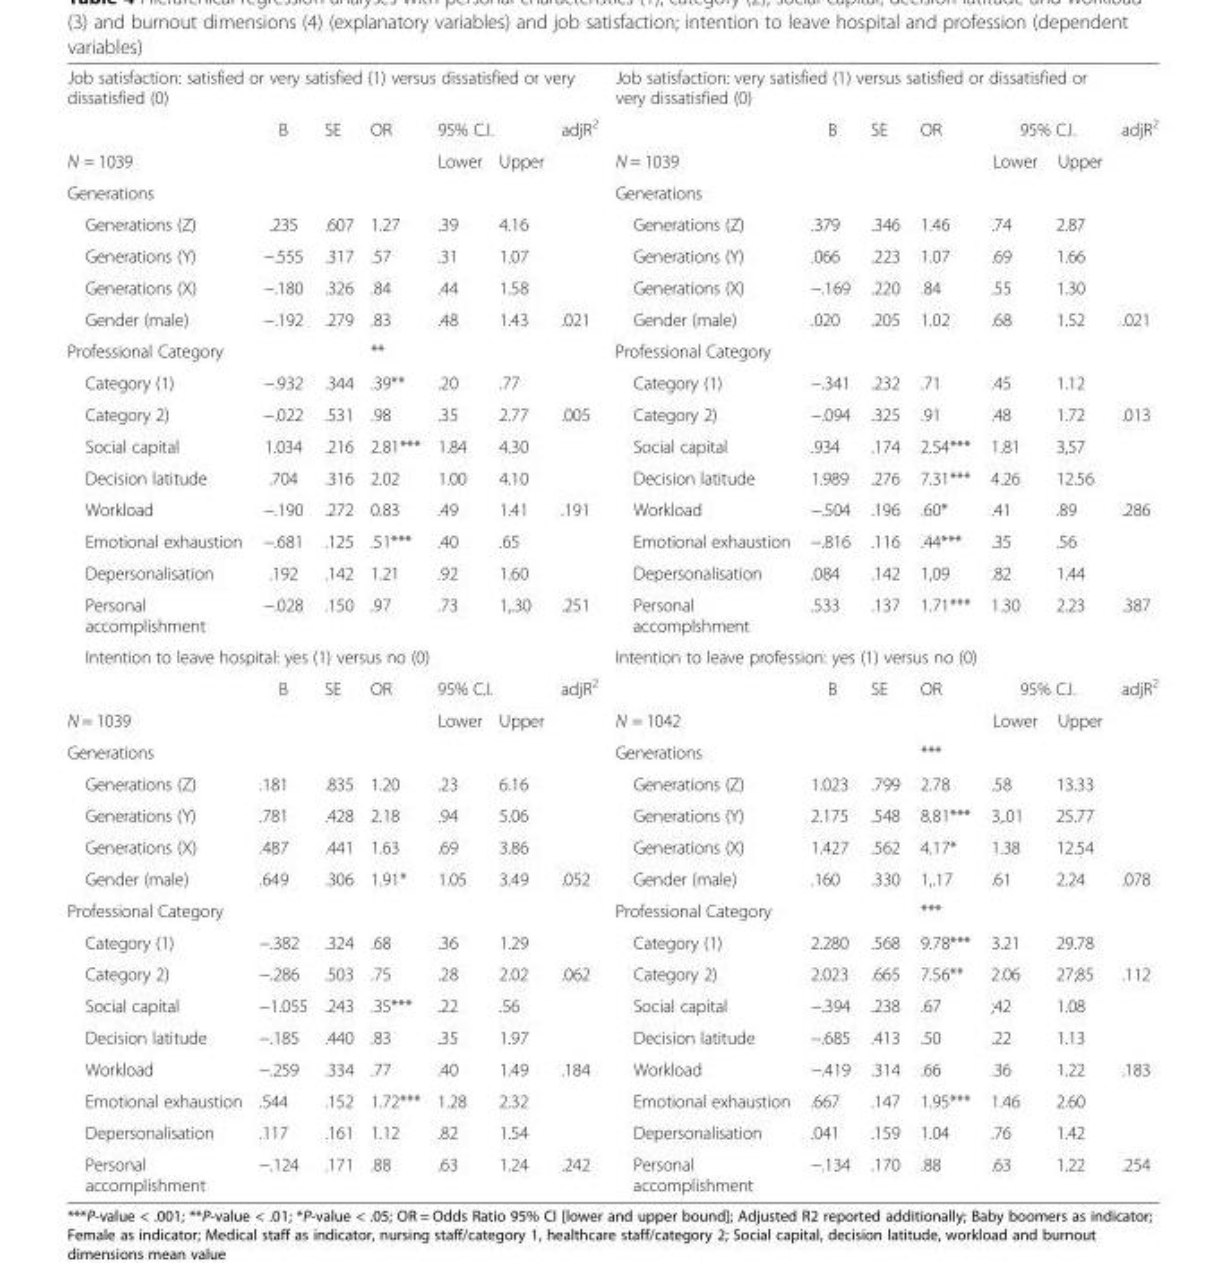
<table><tbody><tr><td colspan="7">Job satisfaction: satisfied or very satisfied (1) versus dissatisfied or very dissatisfied (0)</td><td colspan="6">Job satisfaction: very satisfied (1) versus satisfied or dissatisfied or very dissatisfied (0)</td><td></td></tr><tr><td></td><td>B</td><td>SE</td><td>OR</td><td colspan="2">95% C.I.</td><td>adjR<sup>2</sup></td><td></td><td>B</td><td>SE</td><td>OR</td><td colspan="2">95% C.I.</td><td>adjR<sup>2</sup></td></tr><tr><td>N = 1039</td><td></td><td></td><td></td><td>Lower</td><td>Upper</td><td></td><td>N = 1039</td><td></td><td></td><td></td><td>Lower</td><td>Upper</td><td></td></tr><tr><td>Generations</td><td></td><td></td><td></td><td></td><td></td><td></td><td>Generations</td><td></td><td></td><td></td><td></td><td></td><td></td></tr><tr><td>Generations (Z)</td><td>.235</td><td>.607</td><td>1.27</td><td>.39</td><td>4.16</td><td></td><td>Generations (Z)</td><td>.379</td><td>.346</td><td>1.46</td><td>.74</td><td>2.87</td><td></td></tr><tr><td>Generations (Y)</td><td>−.555</td><td>.317</td><td>.57</td><td>.31</td><td>1.07</td><td></td><td>Generations (Y)</td><td>.066</td><td>.223</td><td>1.07</td><td>.69</td><td>1.66</td><td></td></tr><tr><td>Generations (X)</td><td>−.180</td><td>.326</td><td>.84</td><td>.44</td><td>1.58</td><td></td><td>Generations (X)</td><td>−.169</td><td>.220</td><td>.84</td><td>.55</td><td>1.30</td><td></td></tr><tr><td>Gender (male)</td><td>−.192</td><td>.279</td><td>.83</td><td>.48</td><td>1.43</td><td>.021</td><td>Gender (male)</td><td>.020</td><td>.205</td><td>1.02</td><td>.68</td><td>1.52</td><td>.021</td></tr><tr><td colspan="2">Professional Category</td><td></td><td>**</td><td></td><td></td><td></td><td colspan="2">Professional Category</td><td></td><td></td><td></td><td></td><td></td></tr><tr><td>Category (1)</td><td>−.932</td><td>.344</td><td>.39**</td><td>.20</td><td>.77</td><td></td><td>Category (1)</td><td>−.341</td><td>.232</td><td>.71</td><td>.45</td><td>1.12</td><td></td></tr><tr><td>Category 2)</td><td>−.022</td><td>.531</td><td>.98</td><td>.35</td><td>2.77</td><td>.005</td><td>Category 2)</td><td>−.094</td><td>.325</td><td>.91</td><td>.48</td><td>1.72</td><td>.013</td></tr><tr><td>Social capital</td><td>1.034</td><td>.216</td><td>2.81***</td><td>1.84</td><td>4.30</td><td></td><td>Social capital</td><td>.934</td><td>.174</td><td>2.54***</td><td>1.81</td><td>3,57</td><td></td></tr><tr><td>Decision latitude</td><td>.704</td><td>.316</td><td>2.02</td><td>1.00</td><td>4.10</td><td></td><td>Decision latitude</td><td>1.989</td><td>.276</td><td>7.31***</td><td>4.26</td><td>12.56</td><td></td></tr><tr><td>Workload</td><td>−.190</td><td>.272</td><td>0.83</td><td>.49</td><td>1.41</td><td>.191</td><td>Workload</td><td>−.504</td><td>.196</td><td>.60*</td><td>.41</td><td>.89</td><td>.286</td></tr><tr><td>Emotional exhaustion</td><td>−.681</td><td>.125</td><td>.51***</td><td>.40</td><td>.65</td><td></td><td>Emotional exhaustion</td><td>−.816</td><td>.116</td><td>.44***</td><td>.35</td><td>.56</td><td></td></tr><tr><td>Depersonalisation</td><td>.192</td><td>.142</td><td>1.21</td><td>.92</td><td>1.60</td><td></td><td>Depersonalisation</td><td>.084</td><td>.142</td><td>1,09</td><td>.82</td><td>1.44</td><td></td></tr><tr><td>Personal accomplishment</td><td>−.028</td><td>.150</td><td>.97</td><td>.73</td><td>1,.30</td><td>.251</td><td>Personal accomplshment</td><td>.533</td><td>.137</td><td>1.71***</td><td>1.30</td><td>2.23</td><td>.387</td></tr><tr><td colspan="7">Intention to leave hospital: yes (1) versus no (0)</td><td colspan="6">Intention to leave profession: yes (1) versus no (0)</td><td></td></tr><tr><td></td><td>B</td><td>SE</td><td>OR</td><td colspan="2">95% C.I.</td><td>adjR<sup>2</sup></td><td></td><td>B</td><td>SE</td><td>OR</td><td colspan="2">95% C.I.</td><td>adjR<sup>2</sup></td></tr><tr><td>N = 1039</td><td></td><td></td><td></td><td>Lower</td><td>Upper</td><td></td><td>N = 1042</td><td></td><td></td><td></td><td>Lower</td><td>Upper</td><td></td></tr><tr><td>Generations</td><td></td><td></td><td></td><td></td><td></td><td></td><td>Generations</td><td></td><td></td><td>***</td><td></td><td></td><td></td></tr><tr><td>Generations (Z)</td><td>.181</td><td>.835</td><td>1.20</td><td>.23</td><td>6.16</td><td></td><td>Generations (Z)</td><td>1.023</td><td>.799</td><td>2.78</td><td>.58</td><td>13.33</td><td></td></tr><tr><td>Generations (Y)</td><td>.781</td><td>.428</td><td>2.18</td><td>.94</td><td>5.06</td><td></td><td>Generations (Y)</td><td>2.175</td><td>.548</td><td>8.81***</td><td>3,.01</td><td>25.77</td><td></td></tr><tr><td>Generations (X)</td><td>.487</td><td>.441</td><td>1.63</td><td>.69</td><td>3.86</td><td></td><td>Generations (X)</td><td>1.427</td><td>.562</td><td>4.17*</td><td>1.38</td><td>12.54</td><td></td></tr><tr><td>Gender (male)</td><td>.649</td><td>.306</td><td>1.91*</td><td>1.05</td><td>3.49</td><td>.052</td><td>Gender (male)</td><td>.160</td><td>.330</td><td>1,.17</td><td>.61</td><td>2.24</td><td>.078</td></tr><tr><td colspan="2">Professional Category</td><td></td><td></td><td></td><td></td><td></td><td colspan="2">Professional Category</td><td></td><td>***</td><td></td><td></td><td></td></tr><tr><td>Category (1)</td><td>−.382</td><td>.324</td><td>.68</td><td>.36</td><td>1.29</td><td></td><td>Category (1)</td><td>2.280</td><td>.568</td><td>9.78***</td><td>3.21</td><td>29.78</td><td></td></tr><tr><td>Category 2)</td><td>−.286</td><td>.503</td><td>.75</td><td>.28</td><td>2.02</td><td>.062</td><td>Category 2)</td><td>2.023</td><td>.665</td><td>7.56**</td><td>2.06</td><td>27;85</td><td>.112</td></tr><tr><td>Social capital</td><td>−1.055</td><td>.243</td><td>.35***</td><td>.22</td><td>.56</td><td></td><td>Social capital</td><td>−.394</td><td>.238</td><td>.67</td><td>;42</td><td>1.08</td><td></td></tr><tr><td>Decision latitude</td><td>−.185</td><td>.440</td><td>.83</td><td>.35</td><td>1.97</td><td></td><td>Decision latitude</td><td>−.685</td><td>.413</td><td>.50</td><td>.22</td><td>1.13</td><td></td></tr><tr><td>Workload</td><td>−.259</td><td>.334</td><td>.77</td><td>.40</td><td>1.49</td><td>.184</td><td>Workload</td><td>−.419</td><td>.314</td><td>.66</td><td>.36</td><td>1.22</td><td>.183</td></tr><tr><td>Emotional exhaustion</td><td>.544</td><td>.152</td><td>1.72***</td><td>1.28</td><td>2.32</td><td></td><td>Emotional exhaustion</td><td>.667</td><td>.147</td><td>1.95***</td><td>1.46</td><td>2.60</td><td></td></tr><tr><td>Depersonalisation</td><td>.117</td><td>.161</td><td>1.12</td><td>.82</td><td>1.54</td><td></td><td>Depersonalisation</td><td>.041</td><td>.159</td><td>1.04</td><td>.76</td><td>1.42</td><td></td></tr><tr><td>Personal accomplishment</td><td>−.124</td><td>.171</td><td>.88</td><td>.63</td><td>1.24</td><td>.242</td><td>Personal accomplishment</td><td>−.134</td><td>.170</td><td>.88</td><td>.63</td><td>1.22</td><td>.254</td></tr></tbody></table>